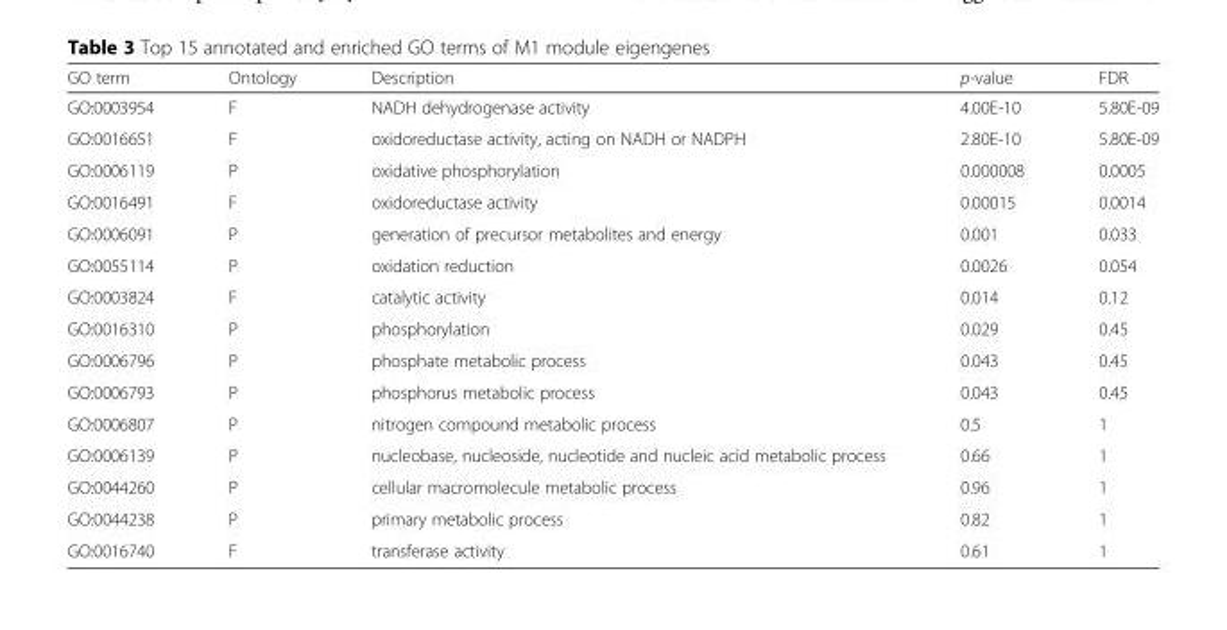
<table><thead><tr><td>GO term</td><td>Ontology</td><td>Description</td><td>p-value</td><td>FDR</td></tr></thead><tbody><tr><td>GO:0003954</td><td>F</td><td>NADH dehydrogenase activity</td><td>4.00E-10</td><td>5.80E-09</td></tr><tr><td>GO:0016651</td><td>F</td><td>oxidoreductase activity, acting on NADH or NADPH</td><td>2.80E-10</td><td>5.80E-09</td></tr><tr><td>GO:0006119</td><td>P</td><td>oxidative phosphorylation</td><td>0.000008</td><td>0.0005</td></tr><tr><td>GO:0016491</td><td>F</td><td>oxidoreductase activity</td><td>0.00015</td><td>0.0014</td></tr><tr><td>GO:0006091</td><td>P</td><td>generation of precursor metabolites and energy</td><td>0.001</td><td>0.033</td></tr><tr><td>GO:0055114</td><td>P</td><td>oxidation reduction</td><td>0.0026</td><td>0.054</td></tr><tr><td>GO:0003824</td><td>F</td><td>catalytic activity</td><td>0.014</td><td>0.12</td></tr><tr><td>GO:0016310</td><td>P</td><td>phosphorylation</td><td>0.029</td><td>0.45</td></tr><tr><td>GO:0006796</td><td>P</td><td>phosphate metabolic process</td><td>0.043</td><td>0.45</td></tr><tr><td>GO:0006793</td><td>P</td><td>phosphorus metabolic process</td><td>0.043</td><td>0.45</td></tr><tr><td>GO:0006807</td><td>P</td><td>nitrogen compound metabolic process</td><td>0.5</td><td>1</td></tr><tr><td>GO:0006139</td><td>P</td><td>nucleobase, nucleoside, nucleotide and nucleic acid metabolic process</td><td>0.66</td><td>1</td></tr><tr><td>GO:0044260</td><td>P</td><td>cellular macromolecule metabolic process</td><td>0.96</td><td>1</td></tr><tr><td>GO:0044238</td><td>P</td><td>primary metabolic process</td><td>0.82</td><td>1</td></tr><tr><td>GO:0016740</td><td>F</td><td>transferase activity</td><td>0.61</td><td>1</td></tr></tbody></table>